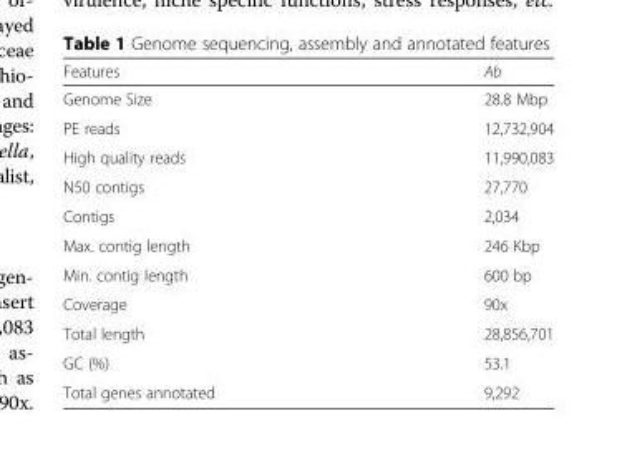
<table><thead><tr><td>Features</td><td>Ab</td></tr></thead><tbody><tr><td>Genome Size</td><td>28.8 Mbp</td></tr><tr><td>PE reads</td><td>12,732,904</td></tr><tr><td>High quality reads</td><td>11,990,083</td></tr><tr><td>N50 contigs</td><td>27,770</td></tr><tr><td>Contigs</td><td>2,034</td></tr><tr><td>Max. contig length</td><td>246 Kbp</td></tr><tr><td>Min. contig length</td><td>600 bp</td></tr><tr><td>Coverage</td><td>90x</td></tr><tr><td>Total length</td><td>28,856,701</td></tr><tr><td>GC (%)</td><td>53.1</td></tr><tr><td>Total genes annotated</td><td>9,292</td></tr></tbody></table>